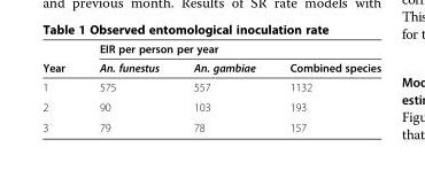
<table><thead><tr><td rowspan="2">Year</td><td colspan="3">EIR per person per year</td></tr><tr><td>An. funestus</td><td>An. gambiae</td><td>Combined species</td></tr></thead><tbody><tr><td>1</td><td>575</td><td>557</td><td>1132</td></tr><tr><td>2</td><td>90</td><td>103</td><td>193</td></tr><tr><td>3</td><td>79</td><td>78</td><td>157</td></tr></tbody></table>